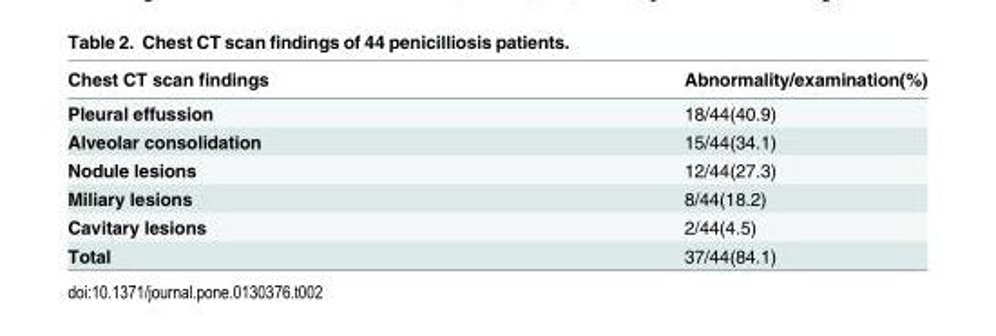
<table><thead><tr><td>Chest CT scan findings</td><td>Abnormality/examination(%)</td></tr></thead><tbody><tr><td>Pleural effussion</td><td>18/44(40.9)</td></tr><tr><td>Alveolar consolidation</td><td>15/44(34.1)</td></tr><tr><td>Nodule lesions</td><td>12/44(27.3)</td></tr><tr><td>Miliary lesions</td><td>8/44(18.2)</td></tr><tr><td>Cavitary lesions</td><td>2/44(4.5)</td></tr><tr><td>Total</td><td>37/44(84.1)</td></tr></tbody></table>